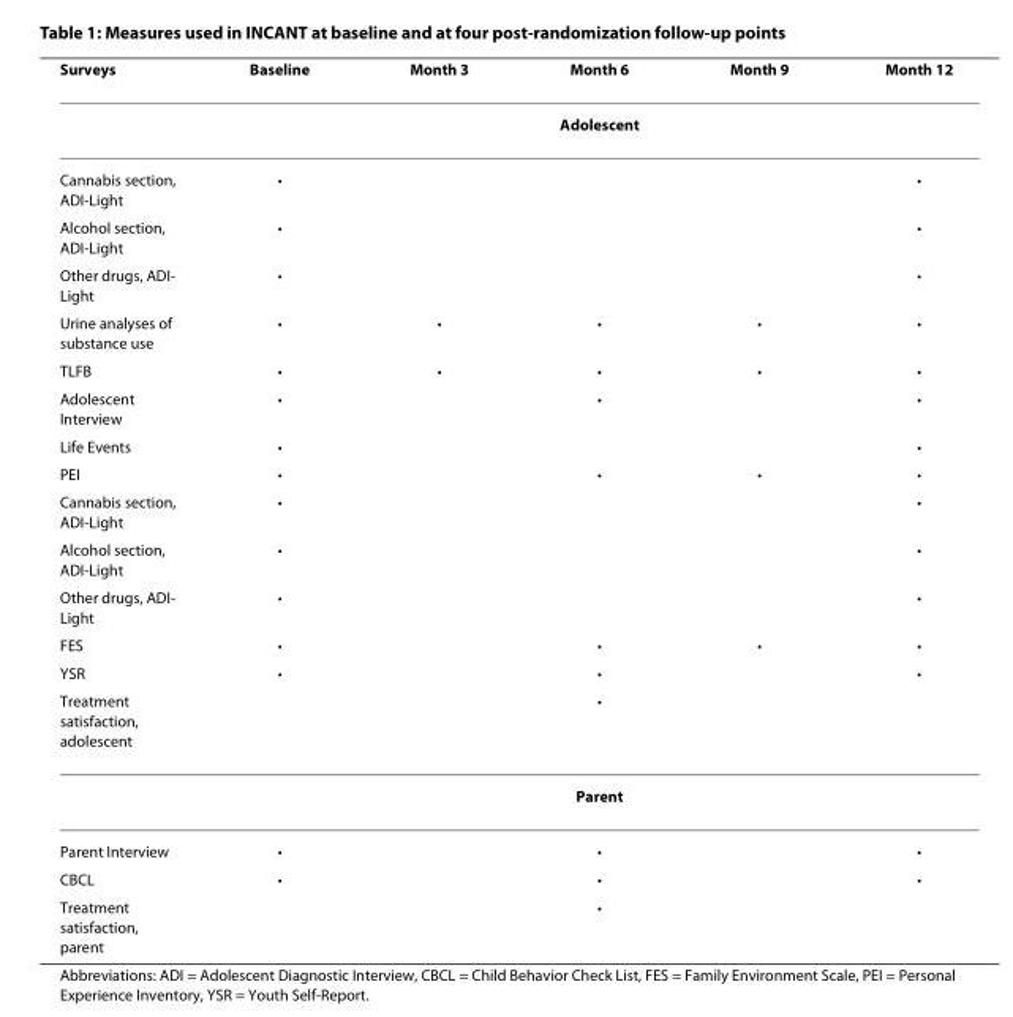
<table><thead><tr><td>Surveys</td><td>Baseline</td><td>Month 3</td><td>Month 6</td><td>Month 9</td><td>Month 12</td></tr></thead><tbody><tr><td></td><td colspan="5">Adolescent</td></tr><tr><td>Cannabis section, ADI-Light</td><td>•</td><td></td><td></td><td></td><td>•</td></tr><tr><td>Alcohol section, ADI-Light</td><td>•</td><td></td><td></td><td></td><td>•</td></tr><tr><td>Other drugs, ADI- Light</td><td>•</td><td></td><td></td><td></td><td>•</td></tr><tr><td>Urine analyses of substance use</td><td>•</td><td>•</td><td>•</td><td>•</td><td>•</td></tr><tr><td>TLFB</td><td>•</td><td>•</td><td>•</td><td>•</td><td>•</td></tr><tr><td>Adolescent Interview</td><td>•</td><td></td><td>•</td><td></td><td>•</td></tr><tr><td>Life Events</td><td>•</td><td></td><td></td><td></td><td>•</td></tr><tr><td>PEI</td><td>•</td><td></td><td>•</td><td>•</td><td>•</td></tr><tr><td>Cannabis section, ADI-Light</td><td>•</td><td></td><td></td><td></td><td>•</td></tr><tr><td>Alcohol section, ADI-Light</td><td>•</td><td></td><td></td><td></td><td>•</td></tr><tr><td>Other drugs, ADI- Light</td><td>•</td><td></td><td></td><td></td><td>•</td></tr><tr><td>FES</td><td>•</td><td></td><td>•</td><td>•</td><td>•</td></tr><tr><td>YSR</td><td>•</td><td></td><td>•</td><td></td><td>•</td></tr><tr><td rowspan="2">Treatment satisfaction, adolescent</td><td></td><td></td><td>•</td><td></td><td></td></tr><tr><td colspan="5">Parent</td></tr><tr><td>Parent Interview</td><td>•</td><td></td><td>•</td><td></td><td>•</td></tr><tr><td>CBCL</td><td>•</td><td></td><td>•</td><td></td><td>•</td></tr><tr><td>Treatment satisfaction, parent</td><td></td><td></td><td>•</td><td></td><td></td></tr></tbody></table>